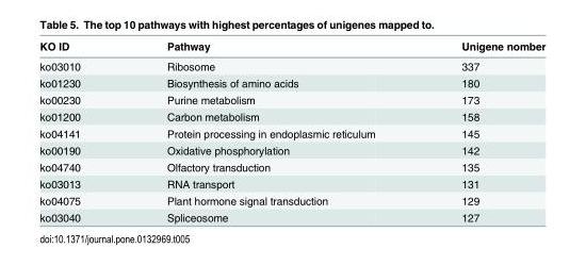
<table><thead><tr><td>KO ID</td><td>Pathway</td><td>Unigene nomber</td></tr></thead><tbody><tr><td>ko03010</td><td>Ribosome</td><td>337</td></tr><tr><td>ko01230</td><td>Biosynthesis of amino acids</td><td>180</td></tr><tr><td>ko00230</td><td>Purine metabolism</td><td>173</td></tr><tr><td>ko01200</td><td>Carbon metabolism</td><td>158</td></tr><tr><td>ko04141</td><td>Protein processing in endoplasmic reticulum</td><td>145</td></tr><tr><td>ko00190</td><td>Oxidative phosphorylation</td><td>142</td></tr><tr><td>ko04740</td><td>Olfactory transduction</td><td>135</td></tr><tr><td>ko03013</td><td>RNA transport</td><td>131</td></tr><tr><td>ko04075</td><td>Plant hormone signal transduction</td><td>129</td></tr><tr><td>ko03040</td><td>Spliceosome</td><td>127</td></tr></tbody></table>